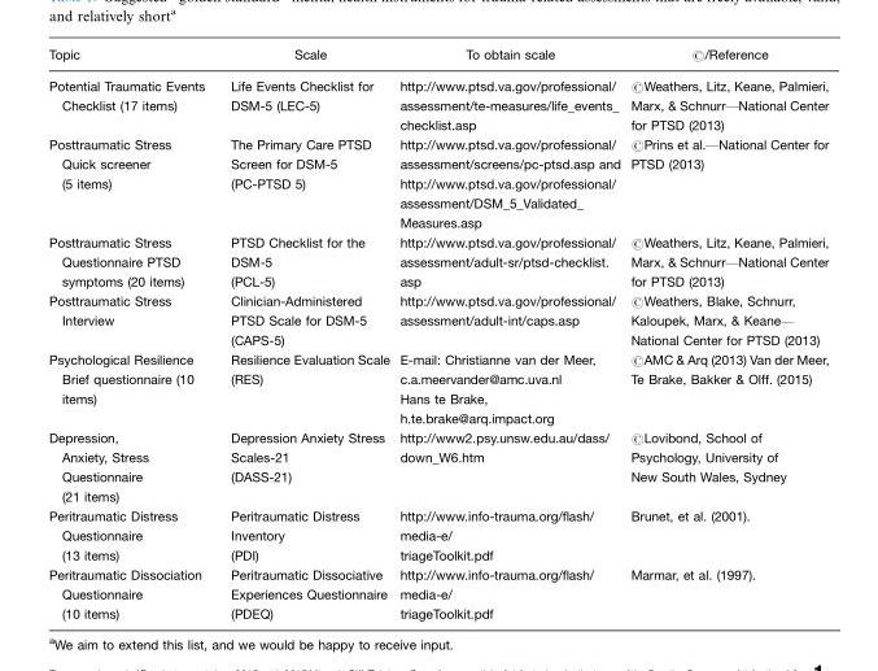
<table><thead><tr><td>Topic</td><td>Scale</td><td>To obtain scale</td><td>#/Reference</td></tr></thead><tbody><tr><td>Potential Traumatic Events Checklist (17 items)</td><td>Life Events Checklist for DSM-5 (LEC-5)</td><td>http://www.ptsd.va.gov/professional/ assessment/te-measures/life_events_ checklist.asp</td><td>#Weathers, Litz, Keane, Palmieri, Marx, &amp; Schnurr*National Center for PTSD (2013)</td></tr><tr><td>Posttraumatic Stress Quick screener (5 items)</td><td>The Primary Care PTSD Screen for DSM-5 (PC-PTSD 5)</td><td>http://www.ptsd.va.gov/professional/ assessment/screens/pc-ptsd.asp and http://www.ptsd.va.gov/professional/ assessment/DSM_5_Validated_ Measures.asp</td><td>#Prins et al.*National Center for PTSD (2013)</td></tr><tr><td>Posttraumatic Stress Questionnaire PTSD symptoms (20 items)</td><td>PTSD Checklist for the DSM-5 (PCL-5)</td><td>http://www.ptsd.va.gov/professional/ assessment/adult-sr/ptsd-checklist. asp</td><td>#Weathers, Litz, Keane, Palmieri, Marx, &amp; Schnurr*National Center for PTSD (2013)</td></tr><tr><td>Posttraumatic Stress Interview</td><td>Clinician-Administered PTSD Scale for DSM-5 (CAPS-5)</td><td>http://www.ptsd.va.gov/professional/ assessment/adult-int/caps.asp</td><td>#Weathers, Blake, Schnurr, Kaloupek, Marx, &amp; Keane* National Center for PTSD (2013)</td></tr><tr><td>Psychological Resilience Brief questionnaire (10 items)</td><td>Resilience Evaluation Scale (RES)</td><td>E-mail: Christianne van der Meer, c.a.meervander@amc.uva.nl Hans te Brake, h.te.brake@arq.impact.org</td><td>#AMC &amp; Arq (2013) Van der Meer, Te Brake, Bakker &amp; Olff. (2015)</td></tr><tr><td>Depression, Anxiety, Stress Questionnaire (21 items)</td><td>Depression Anxiety Stress Scales-21 (DASS-21)</td><td>http://www2.psy.unsw.edu.au/dass/ down_W6.htm</td><td>#Lovibond, School of Psychology, University of New South Wales, Sydney</td></tr><tr><td>Peritraumatic Distress Questionnaire (13 items)</td><td>Peritraumatic Distress Inventory (PDI)</td><td>http://www.info-trauma.org/flash/ media-e/ triageToolkit.pdf</td><td>Brunet, et al. (2001).</td></tr><tr><td>Peritraumatic Dissociation Questionnaire (10 items)</td><td>Peritraumatic Dissociative Experiences Questionnaire (PDEQ)</td><td>http://www.info-trauma.org/flash/ media-e/ triageToolkit.pdf</td><td>Marmar, et al. (1997).</td></tr></tbody></table>